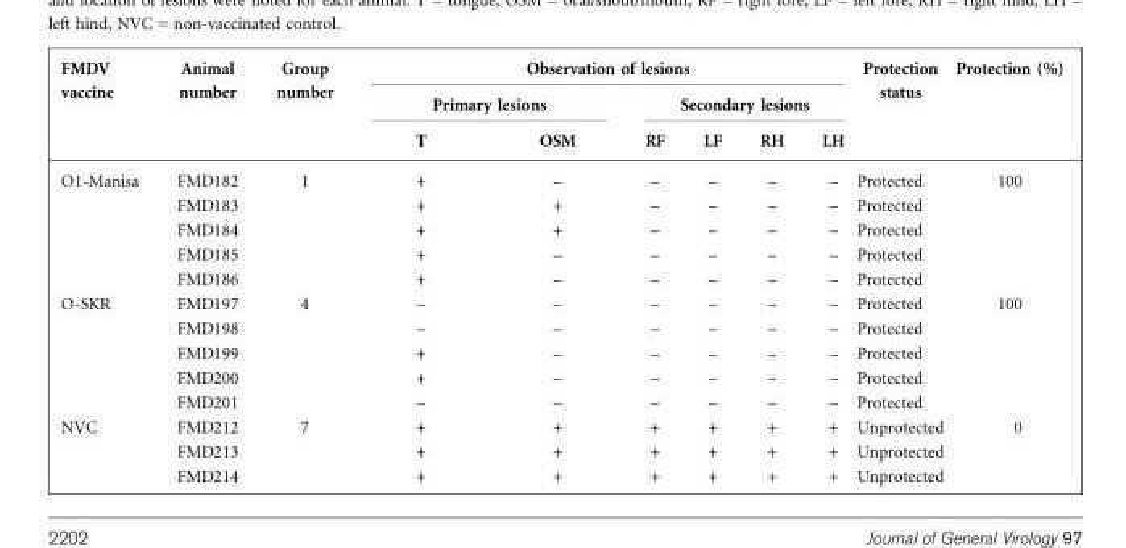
<table><thead><tr><td rowspan="3">FMDV vaccine</td><td rowspan="3">Animal number</td><td rowspan="3">Group number</td><td colspan="6">Observation of lesions</td><td rowspan="3">Protection status</td><td rowspan="3">Protection (%)</td></tr><tr><td colspan="2">Primary lesions</td><td colspan="4">Secondary lesions</td></tr><tr><td>T</td><td>OSM</td><td>RF</td><td>LF</td><td>RH</td><td>LH</td></tr></thead><tbody><tr><td rowspan="5">O1-Manisa</td><td>FMD182</td><td rowspan="5">1</td><td>+</td><td>–</td><td>–</td><td>–</td><td>–</td><td>–</td><td>Protected</td><td rowspan="5">100</td></tr><tr><td>FMD183</td><td>+</td><td>+</td><td>–</td><td>–</td><td>–</td><td>–</td><td>Protected</td></tr><tr><td>FMD184</td><td>+</td><td>+</td><td>–</td><td>–</td><td>–</td><td>–</td><td>Protected</td></tr><tr><td>FMD185</td><td>+</td><td>–</td><td>–</td><td>–</td><td>–</td><td>–</td><td>Protected</td></tr><tr><td>FMD186</td><td>+</td><td>–</td><td>–</td><td>–</td><td>–</td><td>–</td><td>Protected</td></tr><tr><td rowspan="5">O-SKR</td><td>FMD197</td><td rowspan="5">4</td><td>–</td><td>–</td><td>–</td><td>–</td><td>–</td><td>–</td><td>Protected</td><td rowspan="5">100</td></tr><tr><td>FMD198</td><td>–</td><td>–</td><td>–</td><td>–</td><td>–</td><td>–</td><td>Protected</td></tr><tr><td>FMD199</td><td>+</td><td>–</td><td>–</td><td>–</td><td>–</td><td>–</td><td>Protected</td></tr><tr><td>FMD200</td><td>+</td><td>–</td><td>–</td><td>–</td><td>–</td><td>–</td><td>Protected</td></tr><tr><td>FMD201</td><td>–</td><td>–</td><td>–</td><td>–</td><td>–</td><td>–</td><td>Protected</td></tr><tr><td rowspan="3">NVC</td><td>FMD212</td><td rowspan="3">7</td><td>+</td><td>+</td><td>+</td><td>+</td><td>+</td><td>+</td><td>Unprotected</td><td rowspan="3">0</td></tr><tr><td>FMD213</td><td>+</td><td>+</td><td>+</td><td>+</td><td>+</td><td>+</td><td>Unprotected</td></tr><tr><td>FMD214</td><td>+</td><td>+</td><td>+</td><td>+</td><td>+</td><td>+</td><td>Unprotected</td></tr></tbody></table>